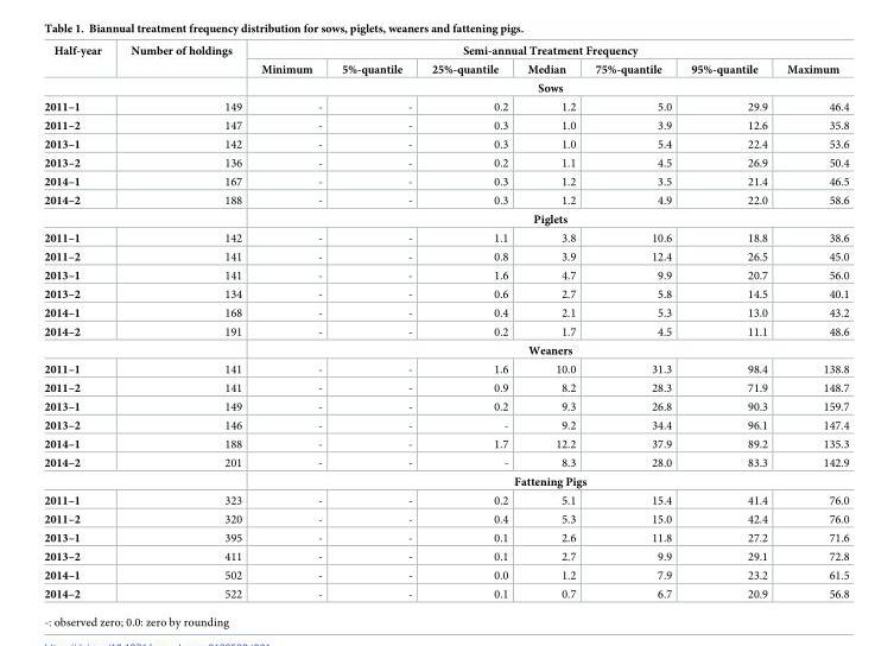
<table><thead><tr><td rowspan="2">Half-year</td><td rowspan="2">Number of holdings</td><td colspan="7">Semi-annual Treatment Frequency</td></tr><tr><td>Minimum</td><td>5%-quantile</td><td>25%-quantile</td><td>Median</td><td>75%-quantile</td><td>95%-quantile</td><td>Maximum</td></tr></thead><tbody><tr><td colspan="2"></td><td colspan="7">Sows</td></tr><tr><td>2011–1</td><td>149</td><td>-</td><td>-</td><td>0.2</td><td>1.2</td><td>5.0</td><td>29.9</td><td>46.4</td></tr><tr><td>2011–2</td><td>147</td><td>-</td><td>-</td><td>0.3</td><td>1.0</td><td>3.9</td><td>12.6</td><td>35.8</td></tr><tr><td>2013–1</td><td>142</td><td>-</td><td>-</td><td>0.3</td><td>1.0</td><td>5.4</td><td>22.4</td><td>53.6</td></tr><tr><td>2013–2</td><td>136</td><td>-</td><td>-</td><td>0.2</td><td>1.1</td><td>4.5</td><td>26.9</td><td>50.4</td></tr><tr><td>2014–1</td><td>167</td><td>-</td><td>-</td><td>0.3</td><td>1.2</td><td>3.5</td><td>21.4</td><td>46.5</td></tr><tr><td>2014–2</td><td>188</td><td>-</td><td>-</td><td>0.3</td><td>1.2</td><td>4.9</td><td>22.0</td><td>58.6</td></tr><tr><td colspan="2"></td><td colspan="7">Piglets</td></tr><tr><td>2011–1</td><td>142</td><td>-</td><td>-</td><td>1.1</td><td>3.8</td><td>10.6</td><td>18.8</td><td>38.6</td></tr><tr><td>2011–2</td><td>141</td><td>-</td><td>-</td><td>0.8</td><td>3.9</td><td>12.4</td><td>26.5</td><td>45.0</td></tr><tr><td>2013–1</td><td>141</td><td>-</td><td>-</td><td>1.6</td><td>4.7</td><td>9.9</td><td>20.7</td><td>56.0</td></tr><tr><td>2013–2</td><td>134</td><td>-</td><td>-</td><td>0.6</td><td>2.7</td><td>5.8</td><td>14.5</td><td>40.1</td></tr><tr><td>2014–1</td><td>168</td><td>-</td><td>-</td><td>0.4</td><td>2.1</td><td>5.3</td><td>13.0</td><td>43.2</td></tr><tr><td>2014–2</td><td>191</td><td>-</td><td>-</td><td>0.2</td><td>1.7</td><td>4.5</td><td>11.1</td><td>48.6</td></tr><tr><td colspan="2"></td><td colspan="7">Weaners</td></tr><tr><td>2011–1</td><td>141</td><td>-</td><td>-</td><td>1.6</td><td>10.0</td><td>31.3</td><td>98.4</td><td>138.8</td></tr><tr><td>2011–2</td><td>141</td><td>-</td><td>-</td><td>0.9</td><td>8.2</td><td>28.3</td><td>71.9</td><td>148.7</td></tr><tr><td>2013–1</td><td>149</td><td>-</td><td>-</td><td>0.2</td><td>9.3</td><td>26.8</td><td>90.3</td><td>159.7</td></tr><tr><td>2013–2</td><td>146</td><td>-</td><td>-</td><td>-</td><td>9.2</td><td>34.4</td><td>96.1</td><td>147.4</td></tr><tr><td>2014–1</td><td>188</td><td>-</td><td>-</td><td>1.7</td><td>12.2</td><td>37.9</td><td>89.2</td><td>135.3</td></tr><tr><td>2014–2</td><td>201</td><td>-</td><td>-</td><td>-</td><td>8.3</td><td>28.0</td><td>83.3</td><td>142.9</td></tr><tr><td colspan="2"></td><td colspan="7">Fattening Pigs</td></tr><tr><td>2011–1</td><td>323</td><td>-</td><td>-</td><td>0.2</td><td>5.1</td><td>15.4</td><td>41.4</td><td>76.0</td></tr><tr><td>2011–2</td><td>320</td><td>-</td><td>-</td><td>0.4</td><td>5.3</td><td>15.0</td><td>42.4</td><td>76.0</td></tr><tr><td>2013–1</td><td>395</td><td>-</td><td>-</td><td>0.1</td><td>2.6</td><td>11.8</td><td>27.2</td><td>71.6</td></tr><tr><td>2013–2</td><td>411</td><td>-</td><td>-</td><td>0.1</td><td>2.7</td><td>9.9</td><td>29.1</td><td>72.8</td></tr><tr><td>2014–1</td><td>502</td><td>-</td><td>-</td><td>0.0</td><td>1.2</td><td>7.9</td><td>23.2</td><td>61.5</td></tr><tr><td>2014–2</td><td>522</td><td>-</td><td>-</td><td>0.1</td><td>0.7</td><td>6.7</td><td>20.9</td><td>56.8</td></tr></tbody></table>